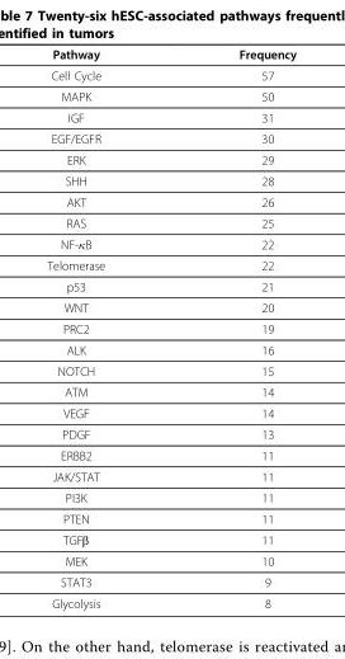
<table><thead><tr><td>Pathway</td><td>Frequency</td></tr></thead><tbody><tr><td>Cell Cycle</td><td>57</td></tr><tr><td>MAPK</td><td>50</td></tr><tr><td>IGF</td><td>31</td></tr><tr><td>EGF/EGFR</td><td>30</td></tr><tr><td>ERK</td><td>29</td></tr><tr><td>SHH</td><td>28</td></tr><tr><td>AKT</td><td>26</td></tr><tr><td>RAS</td><td>25</td></tr><tr><td>NF-κB</td><td>22</td></tr><tr><td>Telomerase</td><td>22</td></tr><tr><td>p53</td><td>21</td></tr><tr><td>WNT</td><td>20</td></tr><tr><td>PRC2</td><td>19</td></tr><tr><td>ALK</td><td>16</td></tr><tr><td>NOTCH</td><td>15</td></tr><tr><td>ATM</td><td>14</td></tr><tr><td>VEGF</td><td>14</td></tr><tr><td>PDGF</td><td>13</td></tr><tr><td>ERBB2</td><td>11</td></tr><tr><td>JAK/STAT</td><td>11</td></tr><tr><td>PI3K</td><td>11</td></tr><tr><td>PTEN</td><td>11</td></tr><tr><td>TGFβ</td><td>11</td></tr><tr><td>MEK</td><td>10</td></tr><tr><td>STAT3</td><td>9</td></tr><tr><td>Glycolysis</td><td>8</td></tr></tbody></table>